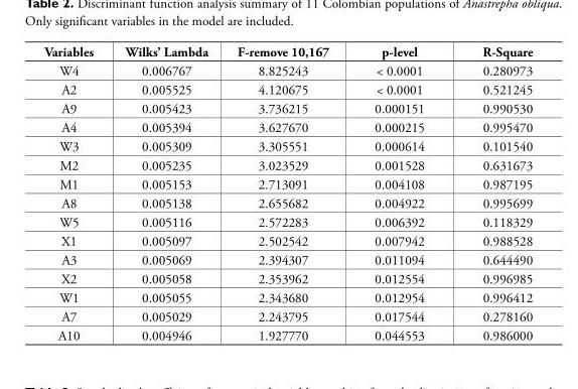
<table><thead><tr><td>Variables</td><td>Wilks’ Lambda</td><td>F-remove 10,167</td><td>p-level</td><td>R-Square</td></tr></thead><tbody><tr><td>W4</td><td>0.006767</td><td>8.825243</td><td>&lt; 0.0001</td><td>0.280973</td></tr><tr><td>A2</td><td>0.005525</td><td>4.120675</td><td>&lt; 0.0001</td><td>0.521245</td></tr><tr><td>A9</td><td>0.005423</td><td>3.736215</td><td>0.000151</td><td>0.990530</td></tr><tr><td>A4</td><td>0.005394</td><td>3.627670</td><td>0.000215</td><td>0.995470</td></tr><tr><td>W3</td><td>0.005309</td><td>3.305551</td><td>0.000614</td><td>0.101540</td></tr><tr><td>M2</td><td>0.005235</td><td>3.023529</td><td>0.001528</td><td>0.631673</td></tr><tr><td>M1</td><td>0.005153</td><td>2.713091</td><td>0.004108</td><td>0.987195</td></tr><tr><td>A8</td><td>0.005138</td><td>2.655682</td><td>0.004922</td><td>0.995699</td></tr><tr><td>W5</td><td>0.005116</td><td>2.572283</td><td>0.006392</td><td>0.118329</td></tr><tr><td>X1</td><td>0.005097</td><td>2.502542</td><td>0.007942</td><td>0.988528</td></tr><tr><td>A3</td><td>0.005069</td><td>2.394307</td><td>0.011094</td><td>0.644490</td></tr><tr><td>X2</td><td>0.005058</td><td>2.353962</td><td>0.012554</td><td>0.996985</td></tr><tr><td>W1</td><td>0.005055</td><td>2.343680</td><td>0.012954</td><td>0.996412</td></tr><tr><td>A7</td><td>0.005029</td><td>2.243795</td><td>0.017544</td><td>0.278160</td></tr><tr><td>A10</td><td>0.004946</td><td>1.927770</td><td>0.044553</td><td>0.986000</td></tr></tbody></table>